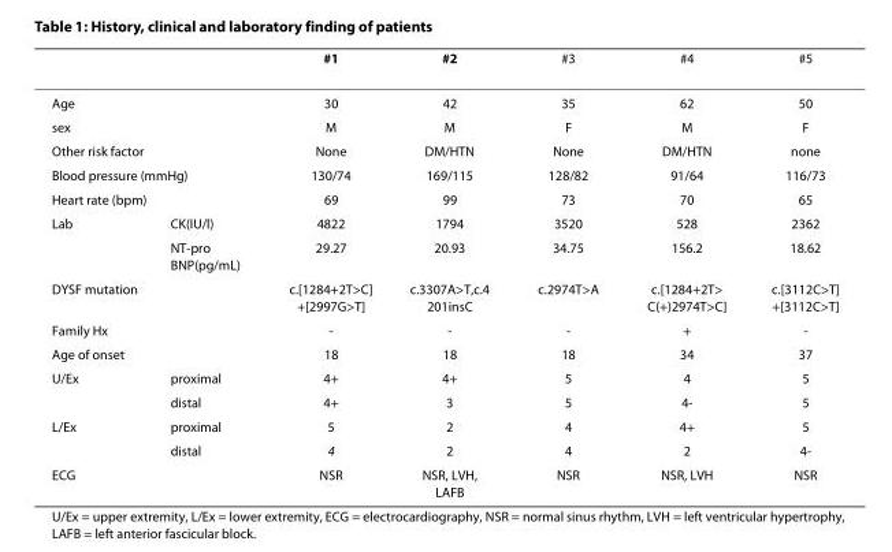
<table><thead><tr><td></td><td></td><td>#1</td><td>#2</td><td>#3</td><td>#4</td><td>#5</td></tr></thead><tbody><tr><td colspan="2">Age</td><td>30</td><td>42</td><td>35</td><td>62</td><td>50</td></tr><tr><td colspan="2">sex</td><td>M</td><td>M</td><td>F</td><td>M</td><td>F</td></tr><tr><td colspan="2">Other risk factor</td><td>None</td><td>DM/HTN</td><td>None</td><td>DM/HTN</td><td>none</td></tr><tr><td colspan="2">Blood pressure (mmHg)</td><td>130/74</td><td>169/115</td><td>128/82</td><td>91/64</td><td>116/73</td></tr><tr><td colspan="2">Heart rate (bpm)</td><td>69</td><td>99</td><td>73</td><td>70</td><td>65</td></tr><tr><td rowspan="2">Lab</td><td>CK(IU/l)</td><td>4822</td><td>1794</td><td>3520</td><td>528</td><td>2362</td></tr><tr><td>NT-pro BNP(pg/mL)</td><td>29.27</td><td>20.93</td><td>34.75</td><td>156.2</td><td>18.62</td></tr><tr><td colspan="2">DYSF mutation</td><td>c.[1284+2T&gt;C] +[2997G&gt;T]</td><td>c.3307A&gt;T,c.4 201insC</td><td>c.2974T&gt;A</td><td>c.[1284+2T&gt; C(+)2974T&gt;C]</td><td>c.[3112C&gt;T] +[3112C&gt;T]</td></tr><tr><td colspan="2">Family Hx</td><td>-</td><td>-</td><td>-</td><td>+</td><td>-</td></tr><tr><td colspan="2">Age of onset</td><td>18</td><td>18</td><td>18</td><td>34</td><td>37</td></tr><tr><td rowspan="2">U/Ex</td><td>proximal</td><td>4+</td><td>4+</td><td>5</td><td>4</td><td>5</td></tr><tr><td>distal</td><td>4+</td><td>3</td><td>5</td><td>4-</td><td>5</td></tr><tr><td rowspan="2">L/Ex</td><td>proximal</td><td>5</td><td>2</td><td>4</td><td>4+</td><td>5</td></tr><tr><td>distal</td><td>4</td><td>2</td><td>4</td><td>2</td><td>4-</td></tr><tr><td colspan="2">ECG</td><td>NSR</td><td>NSR, LVH, LAFB</td><td>NSR</td><td>NSR, LVH</td><td>NSR</td></tr></tbody></table>